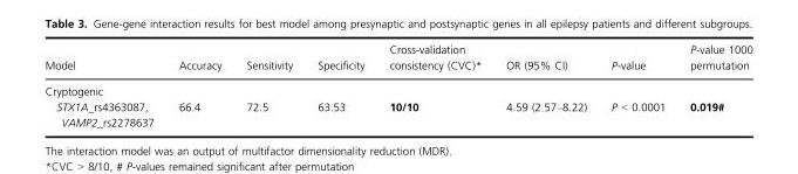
<table><thead><tr><td>Model</td><td>Accuracy</td><td>Sensitivity</td><td>Specificity</td><td>Cross-validation consistency (CVC)*</td><td>OR (95% CI)</td><td>P-value</td><td>P-value 1000 permutation</td></tr></thead><tbody><tr><td colspan="8">Cryptogenic</td></tr><tr><td>STX1A_rs4363087, VAMP2_rs2278637</td><td>66.4</td><td>72.5</td><td>63.53</td><td>10/10</td><td>4.59 (2.57–8.22)</td><td>P &lt; 0.0001</td><td>0.019#</td></tr></tbody></table>